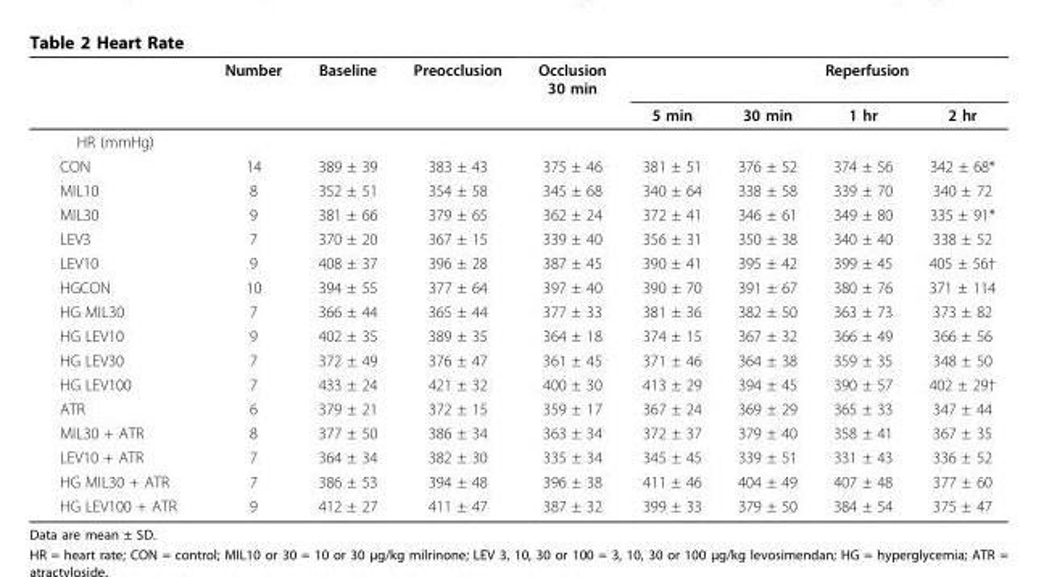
<table><thead><tr><td rowspan="2"></td><td rowspan="2">Number</td><td rowspan="2">Baseline</td><td rowspan="2">Preocclusion</td><td rowspan="2">Occlusion 30 min</td><td rowspan="2">5 min</td><td colspan="3">Reperfusion</td></tr><tr><td>30 min</td><td>1 hr</td><td>2 hr</td></tr></thead><tbody><tr><td colspan="9">HR (mmHg)</td></tr><tr><td>CON</td><td>14</td><td>389 ± 39</td><td>383 ± 43</td><td>375 ± 46</td><td>381 ± 51</td><td>376 ± 52</td><td>374 ± 56</td><td>342 ± 68*</td></tr><tr><td>MIL10</td><td>8</td><td>352 ± 51</td><td>354 ± 58</td><td>345 ± 68</td><td>340 ± 64</td><td>338 ± 58</td><td>339 ± 70</td><td>340 ± 72</td></tr><tr><td>MIL30</td><td>9</td><td>381 ± 66</td><td>379 ± 65</td><td>362 ± 24</td><td>372 ± 41</td><td>346 ± 61</td><td>349 ± 80</td><td>335 ± 91*</td></tr><tr><td>LEV3</td><td>7</td><td>370 ± 20</td><td>367 ± 15</td><td>339 ± 40</td><td>356 ± 31</td><td>350 ± 38</td><td>340 ± 40</td><td>338 ± 52</td></tr><tr><td>LEV10</td><td>9</td><td>408 ± 37</td><td>396 ± 28</td><td>387 ± 45</td><td>390 ± 41</td><td>395 ± 42</td><td>399 ± 45</td><td>405 ± 56†</td></tr><tr><td>HGCON</td><td>10</td><td>394 ± 55</td><td>377 ± 64</td><td>397 ± 40</td><td>390 ± 70</td><td>391 ± 67</td><td>380 ± 76</td><td>371 ± 114</td></tr><tr><td>HG MIL30</td><td>7</td><td>366 ± 44</td><td>365 ± 44</td><td>377 ± 33</td><td>381 ± 36</td><td>382 ± 50</td><td>363 ± 73</td><td>373 ± 82</td></tr><tr><td>HG LEV10</td><td>9</td><td>402 ± 35</td><td>389 ± 35</td><td>364 ± 18</td><td>374 ± 15</td><td>367 ± 32</td><td>366 ± 49</td><td>366 ± 56</td></tr><tr><td>HG LEV30</td><td>7</td><td>372 ± 49</td><td>376 ± 47</td><td>361 ± 45</td><td>371 ± 46</td><td>364 ± 38</td><td>359 ± 35</td><td>348 ± 50</td></tr><tr><td>HG LEV100</td><td>7</td><td>433 ± 24</td><td>421 ± 32</td><td>400 ± 30</td><td>413 ± 29</td><td>394 ± 45</td><td>390 ± 57</td><td>402 ± 29†</td></tr><tr><td>ATR</td><td>6</td><td>379 ± 21</td><td>372 ± 15</td><td>359 ± 17</td><td>367 ± 24</td><td>369 ± 29</td><td>365 ± 33</td><td>347 ± 44</td></tr><tr><td>MIL30 + ATR</td><td>8</td><td>377 ± 50</td><td>386 ± 34</td><td>363 ± 34</td><td>372 ± 37</td><td>379 ± 40</td><td>358 ± 41</td><td>367 ± 35</td></tr><tr><td>LEV10 + ATR</td><td>7</td><td>364 ± 34</td><td>382 ± 30</td><td>335 ± 34</td><td>345 ± 45</td><td>339 ± 51</td><td>331 ± 43</td><td>336 ± 52</td></tr><tr><td>HG MIL30 + ATR</td><td>7</td><td>386 ± 53</td><td>394 ± 48</td><td>396 ± 38</td><td>411 ± 46</td><td>404 ± 49</td><td>407 ± 48</td><td>377 ± 60</td></tr><tr><td>HG LEV100 + ATR</td><td>9</td><td>412 ± 27</td><td>411 ± 47</td><td>387 ± 32</td><td>399 ± 33</td><td>379 ± 50</td><td>384 ± 54</td><td>375 ± 47</td></tr></tbody></table>